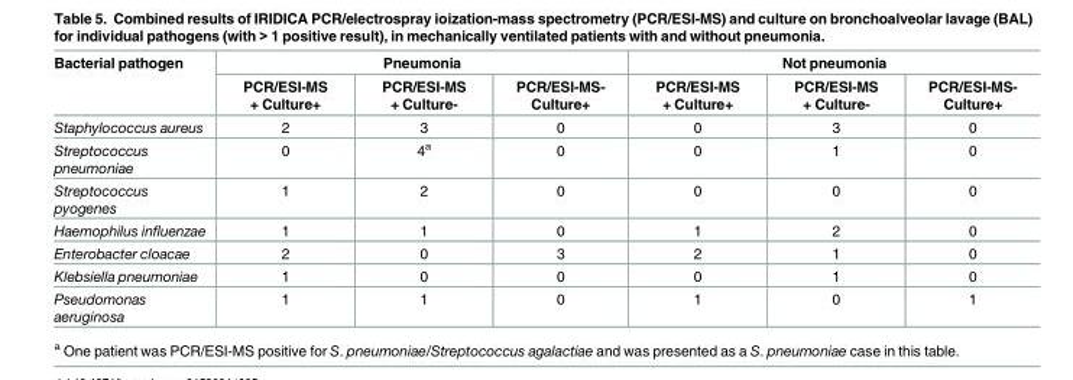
<table><thead><tr><td rowspan="2">Bacterial pathogen</td><td colspan="3">Pneumonia</td><td colspan="3">Not pneumonia</td></tr><tr><td>PCR/ESI-MS + Culture+</td><td>PCR/ESI-MS + Culture-</td><td>PCR/ESI-MS- Culture+</td><td>PCR/ESI-MS + Culture+</td><td>PCR/ESI-MS + Culture-</td><td>PCR/ESI-MS- Culture+</td></tr></thead><tbody><tr><td>Staphylococcus aureus</td><td>2</td><td>3</td><td>0</td><td>0</td><td>3</td><td>0</td></tr><tr><td>Streptococcus pneumoniae</td><td>0</td><td>4<sup>a</sup></td><td>0</td><td>0</td><td>1</td><td>0</td></tr><tr><td>Streptococcus pyogenes</td><td>1</td><td>2</td><td>0</td><td>0</td><td>0</td><td>0</td></tr><tr><td>Haemophilus influenzae</td><td>1</td><td>1</td><td>0</td><td>1</td><td>2</td><td>0</td></tr><tr><td>Enterobacter cloacae</td><td>2</td><td>0</td><td>3</td><td>2</td><td>1</td><td>0</td></tr><tr><td>Klebsiella pneumoniae</td><td>1</td><td>0</td><td>0</td><td>0</td><td>1</td><td>0</td></tr><tr><td>Pseudomonas aeruginosa</td><td>1</td><td>1</td><td>0</td><td>1</td><td>0</td><td>1</td></tr></tbody></table>